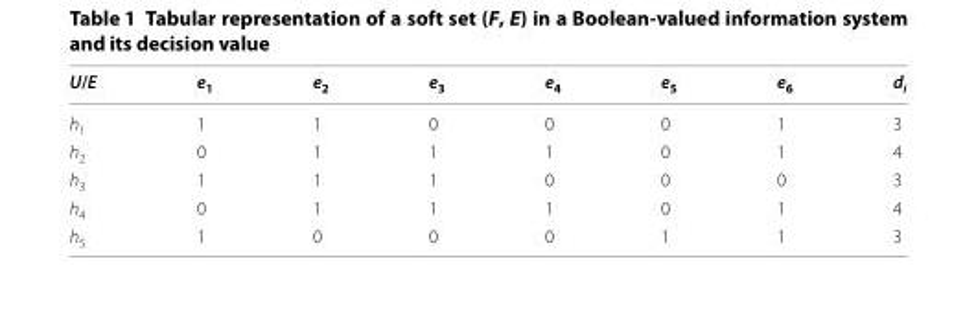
<table><thead><tr><td>U/E</td><td>e<sub>1</sub></td><td>e<sub>2</sub></td><td>e<sub>3</sub></td><td>e<sub>4</sub></td><td>e<sub>5</sub></td><td>e<sub>6</sub></td><td>d<sub>i</sub></td></tr></thead><tbody><tr><td>h<sub>1</sub></td><td>1</td><td>1</td><td>0</td><td>0</td><td>0</td><td>1</td><td>3</td></tr><tr><td>h<sub>2</sub></td><td>0</td><td>1</td><td>1</td><td>1</td><td>0</td><td>1</td><td>4</td></tr><tr><td>h<sub>3</sub></td><td>1</td><td>1</td><td>1</td><td>0</td><td>0</td><td>0</td><td>3</td></tr><tr><td>h<sub>4</sub></td><td>0</td><td>1</td><td>1</td><td>1</td><td>0</td><td>1</td><td>4</td></tr><tr><td>h<sub>5</sub></td><td>1</td><td>0</td><td>0</td><td>0</td><td>1</td><td>1</td><td>3</td></tr></tbody></table>